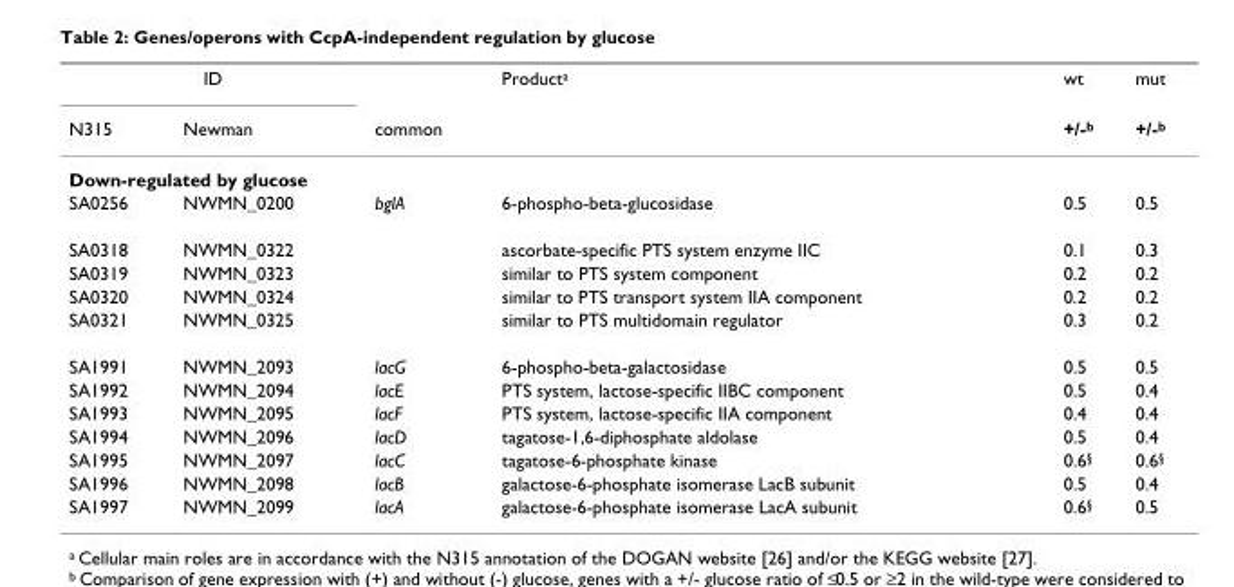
<table><thead><tr><td colspan="2">ID</td><td rowspan="2">common</td><td rowspan="2">Product<sup>a</sup></td><td rowspan="2">wt +/-<sup>b</sup></td><td rowspan="2">mut +/-<sup>b</sup></td></tr><tr><td>N315</td><td>Newman</td></tr></thead><tbody><tr><td colspan="6">Down-regulated by glucose</td></tr><tr><td>SA0256</td><td>NWMN_0200</td><td>bglA</td><td>6-phospho-beta-glucosidase</td><td>0.5</td><td>0.5</td></tr><tr><td>SA0318</td><td>NWMN_0322</td><td></td><td>ascorbate-specific PTS system enzyme IIC</td><td>0.1</td><td>0.3</td></tr><tr><td>SA0319</td><td>NWMN_0323</td><td></td><td>similar to PTS system component</td><td>0.2</td><td>0.2</td></tr><tr><td>SA0320</td><td>NWMN_0324</td><td></td><td>similar to PTS transport system IIA component</td><td>0.2</td><td>0.2</td></tr><tr><td>SA0321</td><td>NWMN_0325</td><td></td><td>similar to PTS multidomain regulator</td><td>0.3</td><td>0.2</td></tr><tr><td>SA1991</td><td>NWMN_2093</td><td>lacG</td><td>6-phospho-beta-galactosidase</td><td>0.5</td><td>0.5</td></tr><tr><td>SA1992</td><td>NWMN_2094</td><td>lacE</td><td>PTS system, lactose-specific IIBC component</td><td>0.5</td><td>0.4</td></tr><tr><td>SA1993</td><td>NWMN_2095</td><td>lacF</td><td>PTS system, lactose-specific IIA component</td><td>0.4</td><td>0.4</td></tr><tr><td>SA1994</td><td>NWMN_2096</td><td>lacD</td><td>tagatose-1,6-diphosphate aldolase</td><td>0.5</td><td>0.4</td></tr><tr><td>SA1995</td><td>NWMN_2097</td><td>lacC</td><td>tagatose-6-phosphate kinase</td><td>0.6<sup>§</sup></td><td>0.6<sup>§</sup></td></tr><tr><td>SA1996</td><td>NWMN_2098</td><td>lacB</td><td>galactose-6-phosphate isomerase LacB subunit</td><td>0.5</td><td>0.4</td></tr><tr><td>SA1997</td><td>NWMN_2099</td><td>lacA</td><td>galactose-6-phosphate isomerase LacA subunit</td><td>0.6<sup>§</sup></td><td>0.5</td></tr></tbody></table>